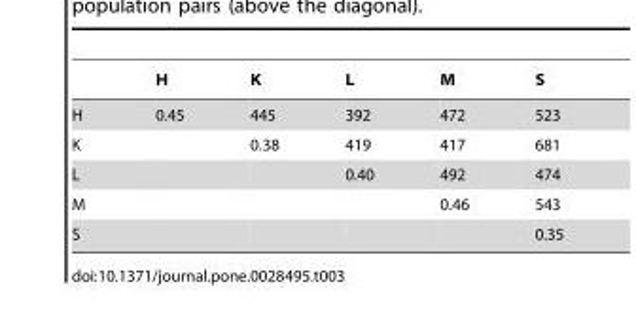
<table><thead><tr><td></td><td>H</td><td>K</td><td>L</td><td>M</td><td>S</td></tr></thead><tbody><tr><td>H</td><td>0.45</td><td>445</td><td>392</td><td>472</td><td>523</td></tr><tr><td>K</td><td></td><td>0.38</td><td>419</td><td>417</td><td>681</td></tr><tr><td>L</td><td></td><td></td><td>0.40</td><td>492</td><td>474</td></tr><tr><td>M</td><td></td><td></td><td></td><td>0.46</td><td>543</td></tr><tr><td>S</td><td></td><td></td><td></td><td></td><td>0.35</td></tr></tbody></table>